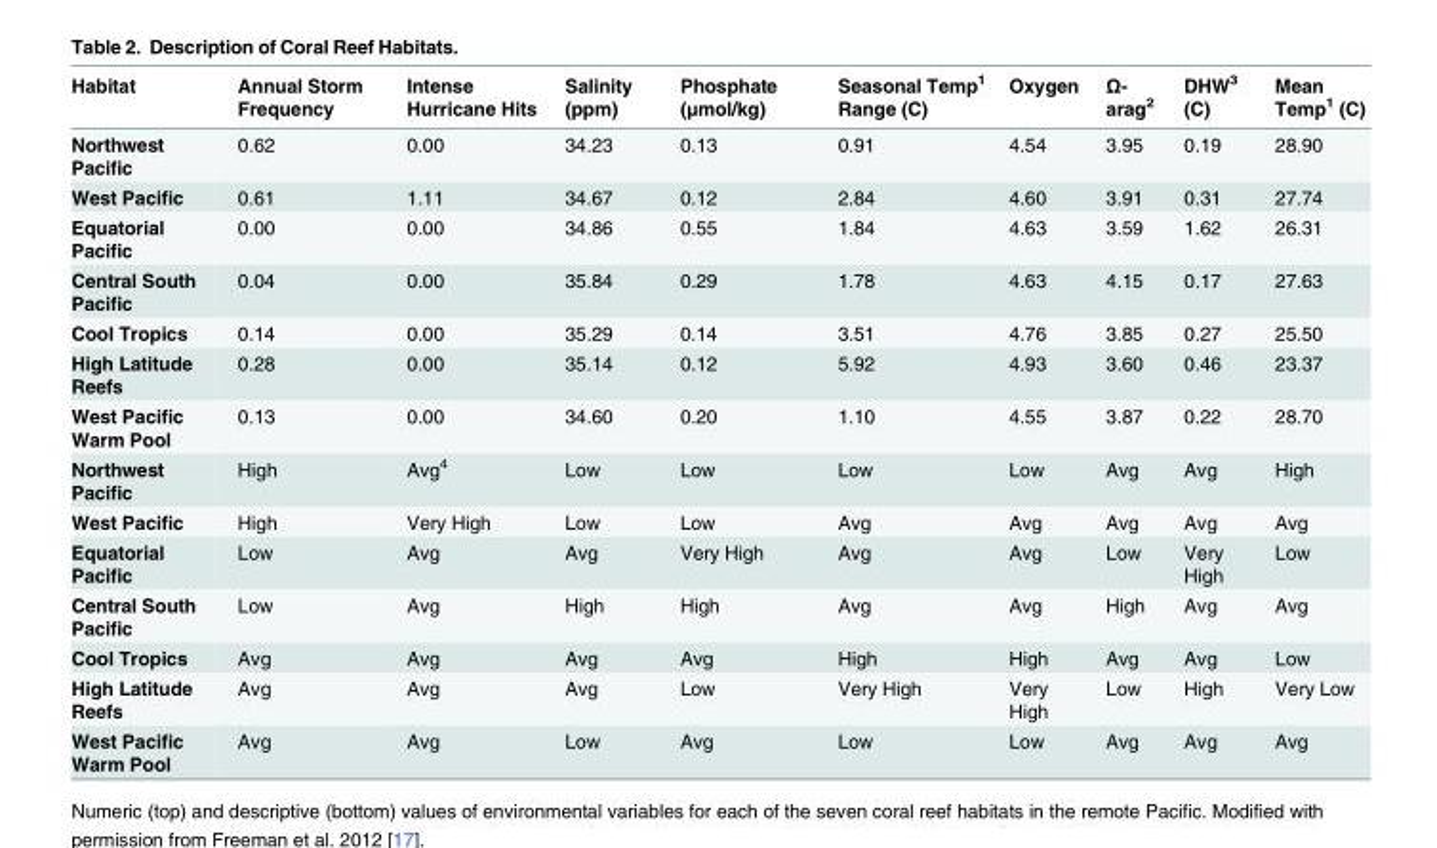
<table><thead><tr><td>Habitat</td><td>Annual Storm Frequency</td><td>Intense Hurricane Hits</td><td>Salinity (ppm)</td><td>Phosphate (μmol/kg)</td><td>Seasonal Temp<sup>1</sup> Range (C)</td><td>Oxygen</td><td>Ω- arag<sup>2</sup></td><td>DHW<sup>3</sup> (C)</td><td>Mean Temp<sup>1</sup> (C)</td></tr></thead><tbody><tr><td>Northwest Pacific</td><td>0.62</td><td>0.00</td><td>34.23</td><td>0.13</td><td>0.91</td><td>4.54</td><td>3.95</td><td>0.19</td><td>28.90</td></tr><tr><td>West Pacific</td><td>0.61</td><td>1.11</td><td>34.67</td><td>0.12</td><td>2.84</td><td>4.60</td><td>3.91</td><td>0.31</td><td>27.74</td></tr><tr><td>Equatorial Pacific</td><td>0.00</td><td>0.00</td><td>34.86</td><td>0.55</td><td>1.84</td><td>4.63</td><td>3.59</td><td>1.62</td><td>26.31</td></tr><tr><td>Central South Pacific</td><td>0.04</td><td>0.00</td><td>35.84</td><td>0.29</td><td>1.78</td><td>4.63</td><td>4.15</td><td>0.17</td><td>27.63</td></tr><tr><td>Cool Tropics</td><td>0.14</td><td>0.00</td><td>35.29</td><td>0.14</td><td>3.51</td><td>4.76</td><td>3.85</td><td>0.27</td><td>25.50</td></tr><tr><td>High Latitude Reefs</td><td>0.28</td><td>0.00</td><td>35.14</td><td>0.12</td><td>5.92</td><td>4.93</td><td>3.60</td><td>0.46</td><td>23.37</td></tr><tr><td>West Pacific Warm Pool</td><td>0.13</td><td>0.00</td><td>34.60</td><td>0.20</td><td>1.10</td><td>4.55</td><td>3.87</td><td>0.22</td><td>28.70</td></tr><tr><td>Northwest Pacific</td><td>High</td><td>Avg<sup>4</sup></td><td>Low</td><td>Low</td><td>Low</td><td>Low</td><td>Avg</td><td>Avg</td><td>High</td></tr><tr><td>West Pacific</td><td>High</td><td>Very High</td><td>Low</td><td>Low</td><td>Avg</td><td>Avg</td><td>Avg</td><td>Avg</td><td>Avg</td></tr><tr><td>Equatorial Pacific</td><td>Low</td><td>Avg</td><td>Avg</td><td>Very High</td><td>Avg</td><td>Avg</td><td>Low</td><td>Very High</td><td>Low</td></tr><tr><td>Central South Pacific</td><td>Low</td><td>Avg</td><td>High</td><td>High</td><td>Avg</td><td>Avg</td><td>High</td><td>Avg</td><td>Avg</td></tr><tr><td>Cool Tropics</td><td>Avg</td><td>Avg</td><td>Avg</td><td>Avg</td><td>High</td><td>High</td><td>Avg</td><td>Avg</td><td>Low</td></tr><tr><td>High Latitude Reefs</td><td>Avg</td><td>Avg</td><td>Avg</td><td>Low</td><td>Very High</td><td>Very High</td><td>Low</td><td>High</td><td>Very Low</td></tr><tr><td>West Pacific Warm Pool</td><td>Avg</td><td>Avg</td><td>Low</td><td>Avg</td><td>Low</td><td>Low</td><td>Avg</td><td>Avg</td><td>Avg</td></tr></tbody></table>